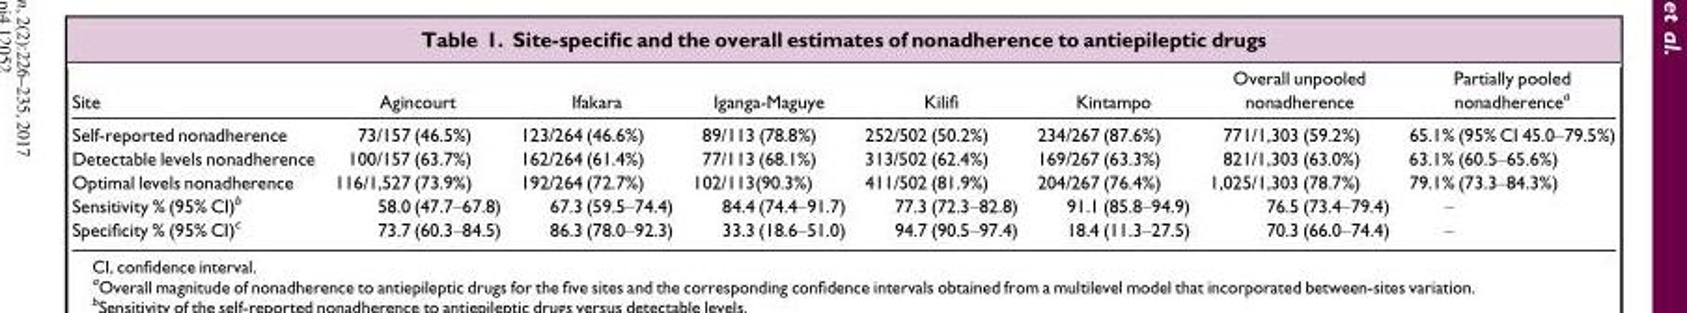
<table><thead><tr><td>Site</td><td>Agincourt</td><td>Ifakara</td><td>Iganga-Maguye</td><td>Kilifi</td><td>Kintampo</td><td>Overall unpooled nonadherence</td><td>Partially pooled nonadherence<sup>a</sup></td></tr></thead><tbody><tr><td>Self-reported nonadherence</td><td>73/157 (46.5%)</td><td>123/264 (46.6%)</td><td>89/113 (78.8%)</td><td>252/502 (50.2%)</td><td>234/267 (87.6%)</td><td>771/1,303 (59.2%)</td><td>65.1% (95% CI 45.0–79.5%)</td></tr><tr><td>Detectable levels nonadherence</td><td>100/157 (63.7%)</td><td>162/264 (61.4%)</td><td>77/113 (68.1%)</td><td>313/502 (62.4%)</td><td>169/267 (63.3%)</td><td>821/1,303 (63.0%)</td><td>63.1% (60.5–65.6%)</td></tr><tr><td>Optimal levels nonadherence</td><td>116/1,527 (73.9%)</td><td>192/264 (72.7%)</td><td>102/113(90.3%)</td><td>411/502 (81.9%)</td><td>204/267 (76.4%)</td><td>1,025/1,303 (78.7%)</td><td>79.1% (73.3–84.3%)</td></tr><tr><td>Sensitivity % (95% CI)<sup>b</sup></td><td>58.0 (47.7–67.8)</td><td>67.3 (59.5–74.4)</td><td>84.4 (74.4–91.7)</td><td>77.3 (72.3–82.8)</td><td>91.1 (85.8–94.9)</td><td>76.5 (73.4–79.4)</td><td>–</td></tr><tr><td>Specificity % (95% CI)<sup>c</sup></td><td>73.7 (60.3–84.5)</td><td>86.3 (78.0–92.3)</td><td>33.3 (18.6–51.0)</td><td>94.7 (90.5–97.4)</td><td>18.4 (11.3–27.5)</td><td>70.3 (66.0–74.4)</td><td>–</td></tr></tbody></table>